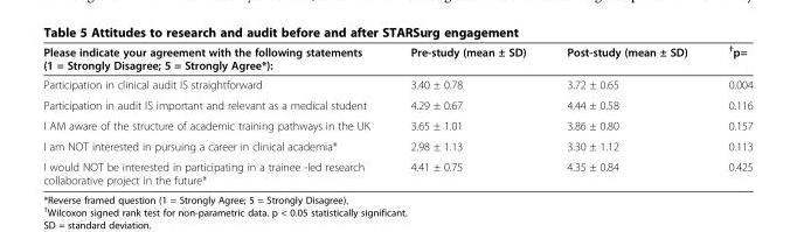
<table><thead><tr><td>Please indicate your agreement with the following statements (1 = Strongly Disagree; 5 = Strongly Agree*):</td><td>Pre-study (mean ± SD)</td><td>Post-study (mean ± SD)</td><td><sup>†</sup>p=</td></tr></thead><tbody><tr><td>Participation in clinical audit IS straightforward</td><td>3.40 ± 0.78</td><td>3.72 ± 0.65</td><td>0.004</td></tr><tr><td>Participation in audit IS important and relevant as a medical student</td><td>4.29 ± 0.67</td><td>4.44 ± 0.58</td><td>0.116</td></tr><tr><td>I AM aware of the structure of academic training pathways in the UK</td><td>3.65 ± 1.01</td><td>3.86 ± 0.80</td><td>0.157</td></tr><tr><td>I am NOT interested in pursuing a career in clinical academia*</td><td>2.98 ± 1.13</td><td>3.30 ± 1.12</td><td>0.113</td></tr><tr><td>I would NOT be interested in participating in a trainee -led research collaborative project in the future*</td><td>4.41 ± 0.75</td><td>4.35 ± 0.84</td><td>0.425</td></tr></tbody></table>